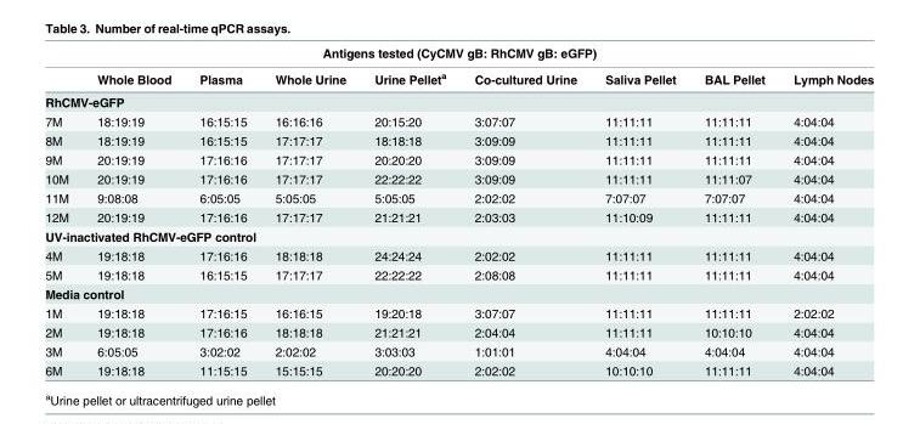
<table><thead><tr><td colspan="9">Antigens tested (CyCMV gB: RhCMV gB: eGFP)</td></tr><tr><td></td><td>Whole Blood</td><td>Plasma</td><td>Whole Urine</td><td>Urine Pellet<sup>a</sup></td><td>Co-cultured Urine</td><td>Saliva Pellet</td><td>BAL Pellet</td><td>Lymph Nodes</td></tr></thead><tbody><tr><td colspan="9">RhCMV-eGFP</td></tr><tr><td>7M</td><td>18:19:19</td><td>16:15:15</td><td>16:16:16</td><td>20:15:20</td><td>3:07:07</td><td>11:11:11</td><td>11:11:11</td><td>4:04:04</td></tr><tr><td>8M</td><td>18:19:19</td><td>16:15:15</td><td>17:17:17</td><td>18:18:18</td><td>3:09:09</td><td>11:11:11</td><td>11:11:11</td><td>4:04:04</td></tr><tr><td>9M</td><td>20:19:19</td><td>17:16:16</td><td>17:17:17</td><td>20:20:20</td><td>3:09:09</td><td>11:11:11</td><td>11:11:11</td><td>4:04:04</td></tr><tr><td>10M</td><td>20:19:19</td><td>17:16:16</td><td>17:17:17</td><td>22:22:22</td><td>3:09:09</td><td>11:11:11</td><td>11:11:07</td><td>4:04:04</td></tr><tr><td>11M</td><td>9:08:08</td><td>6:05:05</td><td>5:05:05</td><td>5:05:05</td><td>2:02:02</td><td>7:07:07</td><td>7:07:07</td><td>4:04:04</td></tr><tr><td>12M</td><td>20:19:19</td><td>17:16:16</td><td>17:17:17</td><td>21:21:21</td><td>2:03:03</td><td>11:10:09</td><td>11:11:11</td><td>4:04:04</td></tr><tr><td colspan="9">UV-inactivated RhCMV-eGFP control</td></tr><tr><td>4M</td><td>19:18:18</td><td>17:16:16</td><td>18:18:18</td><td>24:24:24</td><td>2:02:02</td><td>11:11:11</td><td>11:11:11</td><td>4:04:04</td></tr><tr><td>5M</td><td>19:18:18</td><td>16:15:15</td><td>17:17:17</td><td>22:22:22</td><td>2:08:08</td><td>11:11:11</td><td>11:11:11</td><td>4:04:04</td></tr><tr><td colspan="9">Media control</td></tr><tr><td>1M</td><td>19:18:18</td><td>17:16:15</td><td>16:16:15</td><td>19:20:18</td><td>3:07:07</td><td>11:11:11</td><td>11:11:11</td><td>2:02:02</td></tr><tr><td>2M</td><td>19:18:18</td><td>17:16:16</td><td>18:18:18</td><td>21:21:21</td><td>2:04:04</td><td>11:11:11</td><td>10:10:10</td><td>4:04:04</td></tr><tr><td>3M</td><td>6:05:05</td><td>3:02:02</td><td>2:02:02</td><td>3:03:03</td><td>1:01:01</td><td>4:04:04</td><td>4:04:04</td><td>4:04:04</td></tr><tr><td>6M</td><td>19:18:18</td><td>11:15:15</td><td>15:15:15</td><td>20:20:20</td><td>2:02:02</td><td>10:10:10</td><td>11:11:11</td><td>4:04:04</td></tr></tbody></table>